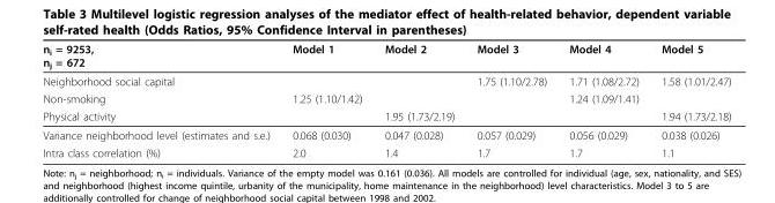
<table><thead><tr><td>n<sub>i</sub> = 9253, n<sub>j</sub> = 672</td><td>Model 1</td><td>Model 2</td><td>Model 3</td><td>Model 4</td><td>Model 5</td></tr></thead><tbody><tr><td>Neighborhood social capital</td><td></td><td></td><td>1.75 (1.10/2.78)</td><td>1.71 (1.08/2.72)</td><td>1.58 (1.01/2.47)</td></tr><tr><td>Non-smoking</td><td>1.25 (1.10/1.42)</td><td></td><td></td><td>1.24 (1.09/1.41)</td><td></td></tr><tr><td>Physical activity</td><td></td><td>1.95 (1.73/2.19)</td><td></td><td></td><td>1.94 (1.73/2.18)</td></tr><tr><td>Variance neighborhood level (estimates and s.e.)</td><td>0.068 (0.030)</td><td>0.047 (0.028)</td><td>0.057 (0.029)</td><td>0.056 (0.029)</td><td>0.038 (0.026)</td></tr><tr><td>Intra class correlation (%)</td><td>2.0</td><td>1.4</td><td>1.7</td><td>1.7</td><td>1.1</td></tr></tbody></table>